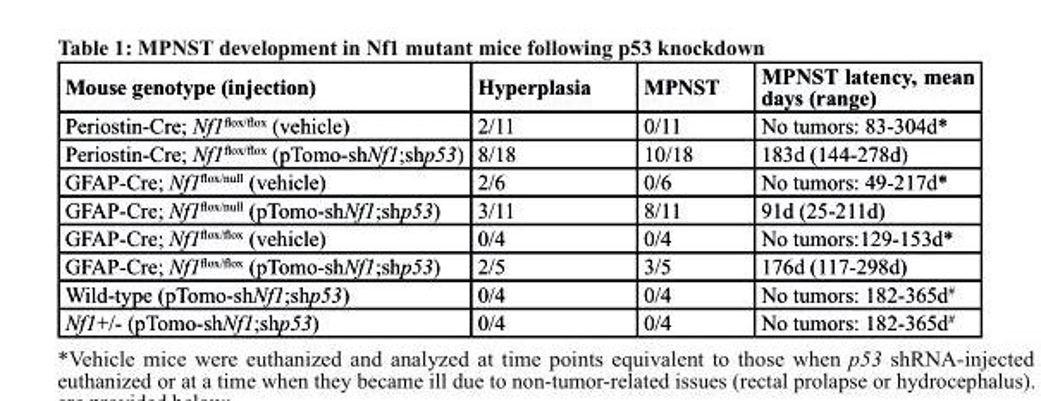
<table><thead><tr><td>Mouse genotype (injection)</td><td>Hyperplasia</td><td>MPNst</td><td>MPNst latency, mean days (range)</td></tr></thead><tbody><tr><td>Periostin-Cre; Nf1<sup>flox/flox</sup> (vehicle)</td><td>2/11</td><td>0/11</td><td>No tumors: 83-304d*</td></tr><tr><td>Periostin-Cre; Nf1<sup>flox/flox</sup> (pTomo-shNf1;shp53)</td><td>8/18</td><td>10/18</td><td>183d (144-278d)</td></tr><tr><td>GFAP-Cre; Nf1<sup>flox/null</sup> (vehicle)</td><td>2/6</td><td>0/6</td><td>No tumors: 49-217d*</td></tr><tr><td>GFAP-Cre; Nf1<sup>flox/null</sup> (pTomo-shNf1;shp53)</td><td>3/11</td><td>8/11</td><td>91d (25-211d)</td></tr><tr><td>GFAP-Cre; Nf1<sup>flox/flox</sup> (vehicle)</td><td>0/4</td><td>0/4</td><td>No tumors:129-153d*</td></tr><tr><td>GFAP-Cre; Nf1<sup>flox/flox</sup> (pTomo-shNf1;shp53)</td><td>2/5</td><td>3/5</td><td>176d (117-298d)</td></tr><tr><td>Wild-type (pTomo-shNf1;shp53)</td><td>0/4</td><td>0/4</td><td>No tumors: 182-365d<sup>#</sup></td></tr><tr><td>Nf1+/- (pTomo-shNf1;shp53)</td><td>0/4</td><td>0/4</td><td>No tumors: 182-365d<sup>#</sup></td></tr></tbody></table>